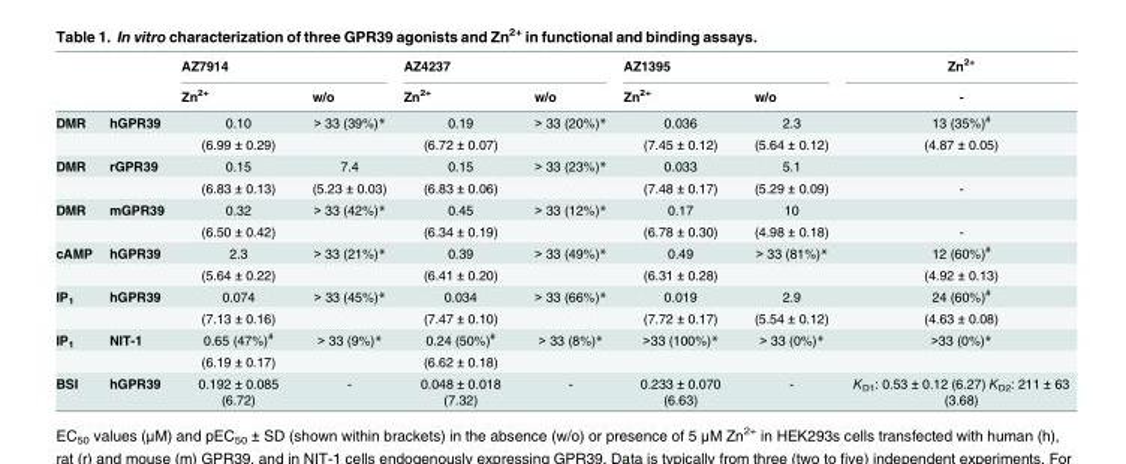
<table><thead><tr><td rowspan="2"></td><td rowspan="2"></td><td colspan="2">AZ7914</td><td colspan="2">AZ4237</td><td colspan="2">AZ1395</td><td rowspan="2">Zn<sup>2+</sup> -</td></tr><tr><td>Zn<sup>2+</sup></td><td>w/o</td><td>Zn<sup>2+</sup></td><td>w/o</td><td>Zn<sup>2+</sup></td><td>w/o</td></tr></thead><tbody><tr><td rowspan="2">DMR</td><td>hGPR39</td><td>0.10</td><td>&gt; 33 (39%)*</td><td>0.19</td><td>&gt; 33 (20%)*</td><td>0.036</td><td>2.3</td><td>13 (35%)<sup>#</sup></td></tr><tr><td></td><td>(6.99 ± 0.29)</td><td></td><td>(6.72 ± 0.07)</td><td></td><td>(7.45 ± 0.12)</td><td>(5.64 ± 0.12)</td><td>(4.87 ± 0.05)</td></tr><tr><td rowspan="2">DMR</td><td>rGPR39</td><td>0.15</td><td>7.4</td><td>0.15</td><td>&gt; 33 (23%)*</td><td>0.033</td><td>5.1</td><td></td></tr><tr><td></td><td>(6.83 ± 0.13)</td><td>(5.23 ± 0.03)</td><td>(6.83 ± 0.06)</td><td></td><td>(7.48 ± 0.17)</td><td>(5.29 ± 0.09)</td><td>-</td></tr><tr><td rowspan="2">DMR</td><td>mGPR39</td><td>0.32</td><td>&gt; 33 (42%)*</td><td>0.45</td><td>&gt; 33 (12%)*</td><td>0.17</td><td>10</td><td></td></tr><tr><td></td><td>(6.50 ± 0.42)</td><td></td><td>(6.34 ± 0.19)</td><td></td><td>(6.78 ± 0.30)</td><td>(4.98 ± 0.18)</td><td>-</td></tr><tr><td rowspan="2">cAMP</td><td>hGPR39</td><td>2.3</td><td>&gt; 33 (21%)*</td><td>0.39</td><td>&gt; 33 (49%)*</td><td>0.49</td><td>&gt; 33 (81%)*</td><td>12 (60%)<sup>#</sup></td></tr><tr><td></td><td>(5.64 ± 0.22)</td><td></td><td>(6.41 ± 0.20)</td><td></td><td>(6.31 ± 0.28)</td><td></td><td>(4.92 ± 0.13)</td></tr><tr><td rowspan="2">IP<sub>1</sub></td><td>hGPR39</td><td>0.074</td><td>&gt; 33 (45%)*</td><td>0.034</td><td>&gt; 33 (66%)*</td><td>0.019</td><td>2.9</td><td>24 (60%)<sup>#</sup></td></tr><tr><td></td><td>(7.13 ± 0.16)</td><td></td><td>(7.47 ± 0.10)</td><td></td><td>(7.72 ± 0.17)</td><td>(5.54 ± 0.12)</td><td>(4.63 ± 0.08)</td></tr><tr><td rowspan="2">IP<sub>1</sub></td><td>NIT-1</td><td>0.65 (47%)<sup>#</sup></td><td>&gt; 33 (9%)*</td><td>0.24 (50%)<sup>#</sup></td><td>&gt; 33 (8%)*</td><td>&gt;33 (100%)*</td><td>&gt; 33 (0%)*</td><td>&gt;33 (0%)*</td></tr><tr><td></td><td>(6.19 ± 0.17)</td><td></td><td>(6.62 ± 0.18)</td><td></td><td></td><td></td><td></td></tr><tr><td>BSI</td><td>hGPR39</td><td>0.192 ± 0.085 (6.72)</td><td>-</td><td>0.048 ± 0.018 (7.32)</td><td>-</td><td>0.233 ± 0.070 (6.63)</td><td>-</td><td>K<sub>D1</sub>: 0.53 ± 0.12 (6.27) K<sub>D2</sub>: 211 ± 63 (3.68)</td></tr></tbody></table>